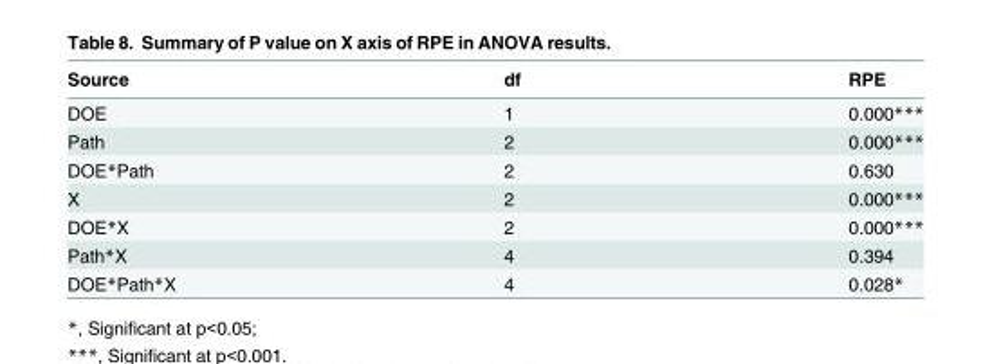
<table><thead><tr><td>Source</td><td>df</td><td>RPE</td></tr></thead><tbody><tr><td>DOE</td><td>1</td><td>0.000***</td></tr><tr><td>Path</td><td>2</td><td>0.000***</td></tr><tr><td>DOE*Path</td><td>2</td><td>0.630</td></tr><tr><td>X</td><td>2</td><td>0.000***</td></tr><tr><td>DOE*X</td><td>2</td><td>0.000***</td></tr><tr><td>Path*X</td><td>4</td><td>0.394</td></tr><tr><td>DOE*Path*X</td><td>4</td><td>0.028*</td></tr></tbody></table>